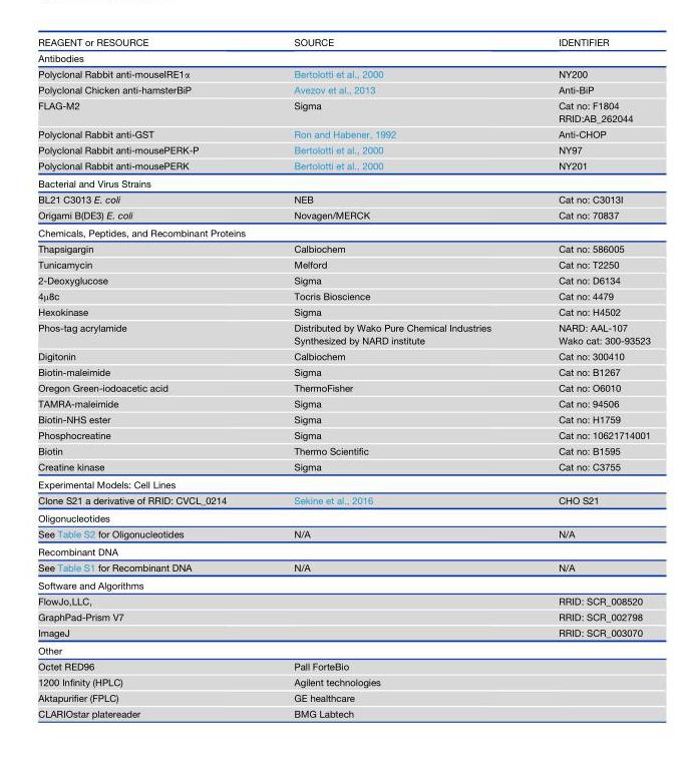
<table><thead><tr><td>REAGENT or RESOURCE</td><td>SOURCE</td><td>IDENTIFIER</td></tr></thead><tbody><tr><td colspan="3">Antibodies</td></tr><tr><td>Polyclonal Rabbit anti-mouseIRE1α</td><td>Bertolotti et al., 2000</td><td>NY200</td></tr><tr><td>Polyclonal Chicken anti-hamsterBiP</td><td>Avezov et al., 2013</td><td>Anti-BiP</td></tr><tr><td>FLAG-M2</td><td>Sigma</td><td>Cat no: F1804 RRID:AB_262044</td></tr><tr><td>Polyclonal Rabbit anti-GST</td><td>Ron and Habener, 1992</td><td>Anti-CHOP</td></tr><tr><td>Polyclonal Rabbit anti-mousePERK-P</td><td>Bertolotti et al., 2000</td><td>NY97</td></tr><tr><td>Polyclonal Rabbit anti-mousePERK</td><td>Bertolotti et al., 2000</td><td>NY201</td></tr><tr><td colspan="3">Bacterial and Virus Strains</td></tr><tr><td>BL21 C3013 E. coli</td><td>NEB</td><td>Cat no: C3013I</td></tr><tr><td>Origami B(DE3) E. coli</td><td>Novagen/MERCK</td><td>Cat no: 70837</td></tr><tr><td colspan="3">Chemicals, Peptides, and Recombinant Proteins</td></tr><tr><td>Thapsigargin</td><td>Calbiochem</td><td>Cat no: 586005</td></tr><tr><td>Tunicamycin</td><td>Melford</td><td>Cat no: T2250</td></tr><tr><td>2-Deoxyglucose</td><td>Sigma</td><td>Cat no: D6134</td></tr><tr><td>4μ8c</td><td>Tocris Bioscience</td><td>Cat no: 4479</td></tr><tr><td>Hexokinase</td><td>Sigma</td><td>Cat no: H4502</td></tr><tr><td>Phos-tag acrylamide</td><td>Distributed by Wako Pure Chemical Industries Synthesized by NARD institute</td><td>NARD: AAL-107 Wako cat: 300-93523</td></tr><tr><td>Digitonin</td><td>Calbiochem</td><td>Cat no: 300410</td></tr><tr><td>Biotin-maleimide</td><td>Sigma</td><td>Cat no: B1267</td></tr><tr><td>Oregon Green-iodoacetic acid</td><td>ThermoFisher</td><td>Cat no: O6010</td></tr><tr><td>TAMRA-maleimide</td><td>Sigma</td><td>Cat no: 94506</td></tr><tr><td>Biotin-NHS ester</td><td>Sigma</td><td>Cat no: H1759</td></tr><tr><td>Phosphocreatine</td><td>Sigma</td><td>Cat no: 10621714001</td></tr><tr><td>Biotin</td><td>Thermo Scientific</td><td>Cat no: B1595</td></tr><tr><td>Creatine kinase</td><td>Sigma</td><td>Cat no: C3755</td></tr><tr><td colspan="3">Experimental Models: Cell Lines</td></tr><tr><td>Clone S21 a derivative of RRID: CVCL_0214</td><td>Sekine et al., 2016</td><td>CHO S21</td></tr><tr><td colspan="3">Oligonucleotides</td></tr><tr><td>See Table S2 for Oligonucleotides</td><td>N/A</td><td>N/A</td></tr><tr><td colspan="3">Recombinant DNA</td></tr><tr><td>See Table S1 for Recombinant DNA</td><td>N/A</td><td>N/A</td></tr><tr><td colspan="3">Software and Algorithms</td></tr><tr><td>FlowJo,LLC,</td><td></td><td>RRID: SCR_008520</td></tr><tr><td>GraphPad-Prism V7</td><td></td><td>RRID: SCR_002798</td></tr><tr><td>ImageJ</td><td></td><td>RRID: SCR_003070</td></tr><tr><td colspan="3">Other</td></tr><tr><td>Octet RED96</td><td>Pall ForteBio</td><td></td></tr><tr><td>1200 Infinity (HPLC)</td><td>Agilent technologies</td><td></td></tr><tr><td>Aktapurifier (FPLC)</td><td>GE healthcare</td><td></td></tr><tr><td>CLARIOstar platereader</td><td>BMG Labtech</td><td></td></tr></tbody></table>